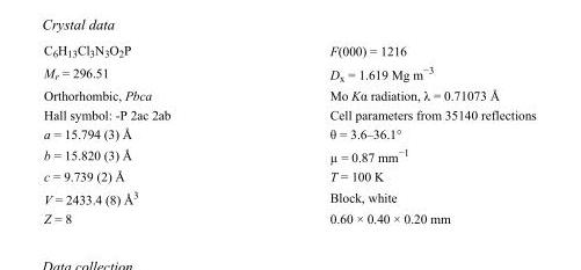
<table><tbody><tr><td>C<sub>6</sub>H<sub>13</sub>Cl<sub>3</sub>N<sub>3</sub>O<sub>2</sub>P</td><td>F(000) = 1216</td></tr><tr><td>M<sub>r</sub> = 296.51</td><td>D<sub>x</sub> = 1.619 Mg m<sup>−3</sup></td></tr><tr><td>Orthorhombic, Pbca</td><td>Mo Kα radiation, λ = 0.71073 Å</td></tr><tr><td>Hall symbol: -P 2ac 2ab</td><td>Cell parameters from 35140 reflections</td></tr><tr><td>a = 15.794 (3) Å</td><td>θ = 3.6–36.1°</td></tr><tr><td>b = 15.820 (3) Å</td><td>µ = 0.87 mm<sup>−1</sup></td></tr><tr><td>c = 9.739 (2) Å</td><td>T = 100 K</td></tr><tr><td>V = 2433.4 (8) Å<sup>3</sup></td><td>Block, white</td></tr><tr><td>Z = 8</td><td>0.60 × 0.40 × 0.20 mm</td></tr></tbody></table>